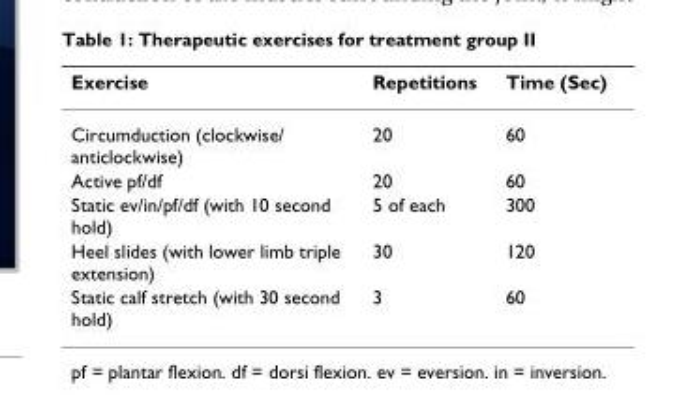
<table><thead><tr><td>Exercise</td><td>Repetitions</td><td>Time (Sec)</td></tr></thead><tbody><tr><td>Circumduction (clockwise/ anticlockwise)</td><td>20</td><td>60</td></tr><tr><td>Active pf/df</td><td>20</td><td>60</td></tr><tr><td>Static ev/in/pf/df (with 10 second hold)</td><td>5 of each</td><td>300</td></tr><tr><td>Heel slides (with lower limb triple extension)</td><td>30</td><td>120</td></tr><tr><td>Static calf stretch (with 30 second hold)</td><td>3</td><td>60</td></tr></tbody></table>